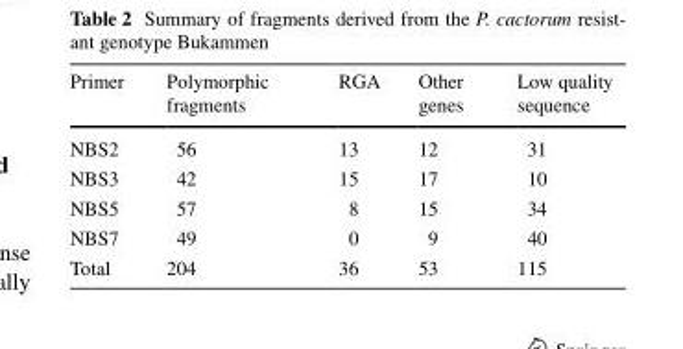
<table><thead><tr><td>Primer</td><td>Polymorphic fragments</td><td>RGA</td><td>Other genes</td><td>Low quality sequence</td></tr></thead><tbody><tr><td>NBS2</td><td>56</td><td>13</td><td>12</td><td>31</td></tr><tr><td>NBS3</td><td>42</td><td>15</td><td>17</td><td>10</td></tr><tr><td>NBS5</td><td>57</td><td>8</td><td>15</td><td>34</td></tr><tr><td>NBS7</td><td>49</td><td>0</td><td>9</td><td>40</td></tr><tr><td>Total</td><td>204</td><td>36</td><td>53</td><td>115</td></tr></tbody></table>